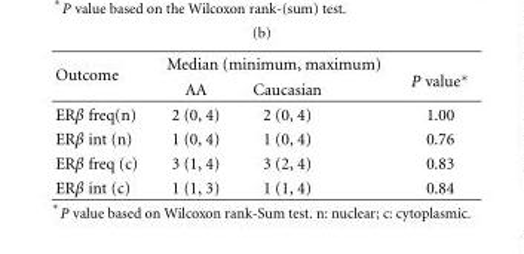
<table><thead><tr><td rowspan="2">Outcome</td><td colspan="2">Median (minimum, maximum)</td><td rowspan="2">P value∗</td></tr><tr><td>AA</td><td>Caucasian</td></tr></thead><tbody><tr><td>ERβ freq(n)</td><td>2 (0, 4)</td><td>2 (0, 4)</td><td>1.00</td></tr><tr><td>ERβ int (n)</td><td>1 (0, 4)</td><td>1 (0, 4)</td><td>0.76</td></tr><tr><td>ERβ freq (c)</td><td>3 (1, 4)</td><td>3 (2, 4)</td><td>0.83</td></tr><tr><td>ERβ int (c)</td><td>1 (1, 3)</td><td>1 (1, 4)</td><td>0.84</td></tr></tbody></table>